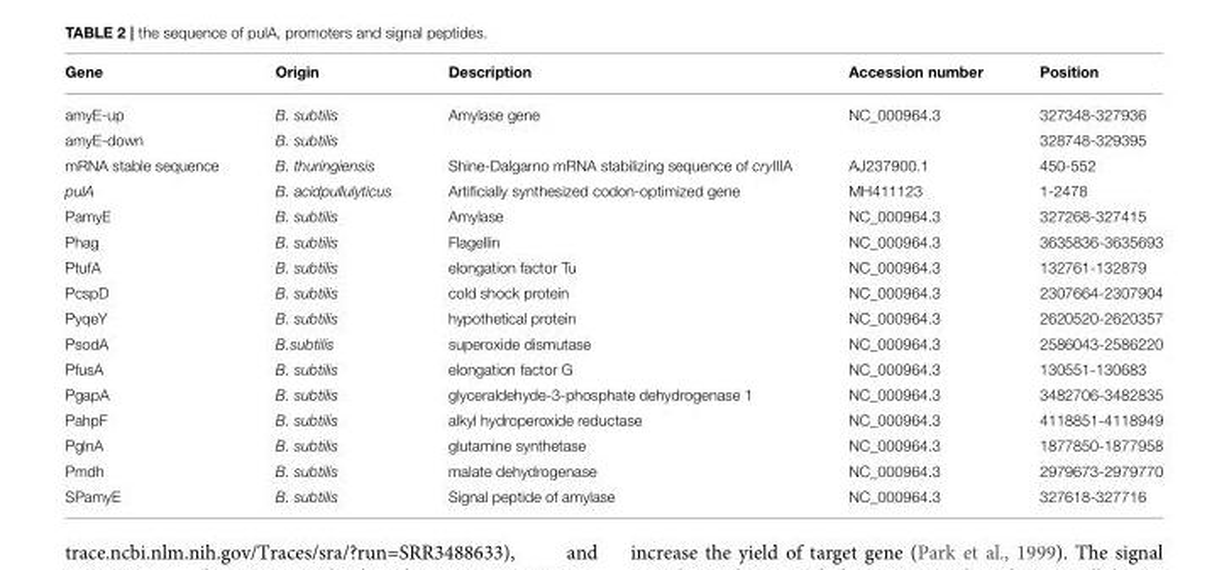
<table><thead><tr><td>Gene</td><td>Origin</td><td>Description</td><td>Accession number</td><td>Position</td></tr></thead><tbody><tr><td>amyE-up</td><td>B. subtilis</td><td>Amylase gene</td><td>NC_000964.3</td><td>327348-327936</td></tr><tr><td>amyE-down</td><td>B. subtilis</td><td></td><td></td><td>328748-329395</td></tr><tr><td>mRNA stable sequence</td><td>B. thuringiensis</td><td>Shine-Dalgarno mRNA stabilizing sequence of cryIIIA</td><td>AJ237900.1</td><td>450-552</td></tr><tr><td>pulA</td><td>B. acidpullulyticus</td><td>Artificially synthesized codon-optimized gene</td><td>MH411123</td><td>1-2478</td></tr><tr><td>PamyE</td><td>B. subtilis</td><td>Amylase</td><td>NC_000964.3</td><td>327268-327415</td></tr><tr><td>Phag</td><td>B. subtilis</td><td>Flagellin</td><td>NC_000964.3</td><td>3635836-3635693</td></tr><tr><td>PtufA</td><td>B. subtilis</td><td>elongation factor Tu</td><td>NC_000964.3</td><td>132761-132879</td></tr><tr><td>PcspD</td><td>B. subtilis</td><td>cold shock protein</td><td>NC_000964.3</td><td>2307664-2307904</td></tr><tr><td>PyqeY</td><td>B. subtilis</td><td>hypothetical protein</td><td>NC_000964.3</td><td>2620520-2620357</td></tr><tr><td>PsodA</td><td>B.subtilis</td><td>superoxide dismutase</td><td>NC_000964.3</td><td>2586043-2586220</td></tr><tr><td>PfusA</td><td>B. subtilis</td><td>elongation factor G</td><td>NC_000964.3</td><td>130551-130683</td></tr><tr><td>PgapA</td><td>B. subtilis</td><td>glyceraldehyde-3-phosphate dehydrogenase 1</td><td>NC_000964.3</td><td>3482706-3482835</td></tr><tr><td>PahpF</td><td>B. subtilis</td><td>alkyl hydroperoxide reductase</td><td>NC_000964.3</td><td>4118851-4118949</td></tr><tr><td>PglnA</td><td>B. subtilis</td><td>glutamine synthetase</td><td>NC_000964.3</td><td>1877850-1877958</td></tr><tr><td>Pmdh</td><td>B. subtilis</td><td>malate dehydrogenase</td><td>NC_000964.3</td><td>2979673-2979770</td></tr><tr><td>SPamyE</td><td>B. subtilis</td><td>Signal peptide of amylase</td><td>NC_000964.3</td><td>327618-327716</td></tr></tbody></table>